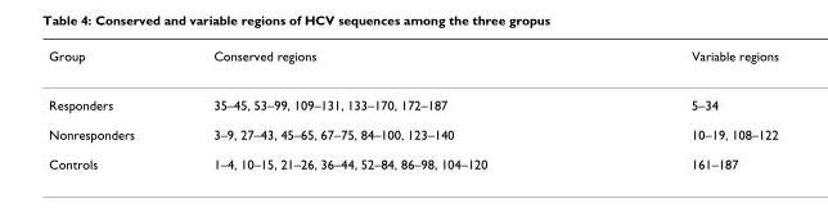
<table><thead><tr><td>Group</td><td>Conserved regions</td><td>Variable regions</td></tr></thead><tbody><tr><td>Responders</td><td>35–45, 53–99, 109–131, 133–170, 172–187</td><td>5–34</td></tr><tr><td>Nonresponders</td><td>3–9, 27–43, 45–65, 67–75, 84–100, 123–140</td><td>10–19, 108–122</td></tr><tr><td>Controls</td><td>1–4, 10–15, 21–26, 36–44, 52–84, 86–98, 104–120</td><td>161–187</td></tr></tbody></table>